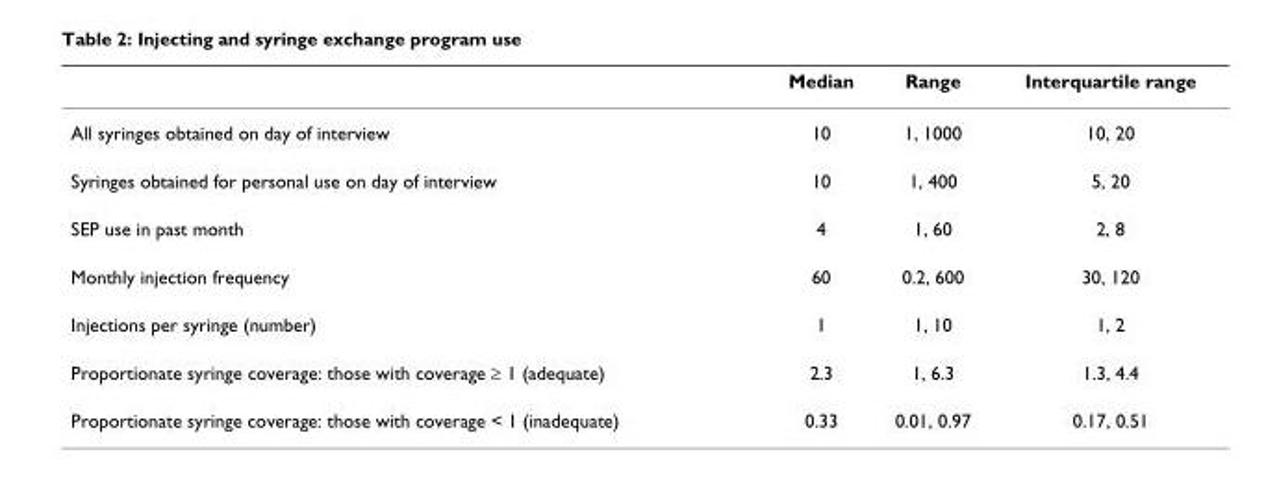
<table><thead><tr><td></td><td>Median</td><td>Range</td><td>Interquartile range</td></tr></thead><tbody><tr><td>All syringes obtained on day of interview</td><td>10</td><td>1, 1000</td><td>10, 20</td></tr><tr><td>Syringes obtained for personal use on day of interview</td><td>10</td><td>1, 400</td><td>5, 20</td></tr><tr><td>SEP use in past month</td><td>4</td><td>1, 60</td><td>2, 8</td></tr><tr><td>Monthly injection frequency</td><td>60</td><td>0.2, 600</td><td>30, 120</td></tr><tr><td>Injections per syringe (number)</td><td>1</td><td>1, 10</td><td>1, 2</td></tr><tr><td>Proportionate syringe coverage: those with coverage ≥ 1 (adequate)</td><td>2.3</td><td>1, 6.3</td><td>1.3, 4.4</td></tr><tr><td>Proportionate syringe coverage: those with coverage &lt; 1 (inadequate)</td><td>0.33</td><td>0.01, 0.97</td><td>0.17, 0.51</td></tr></tbody></table>